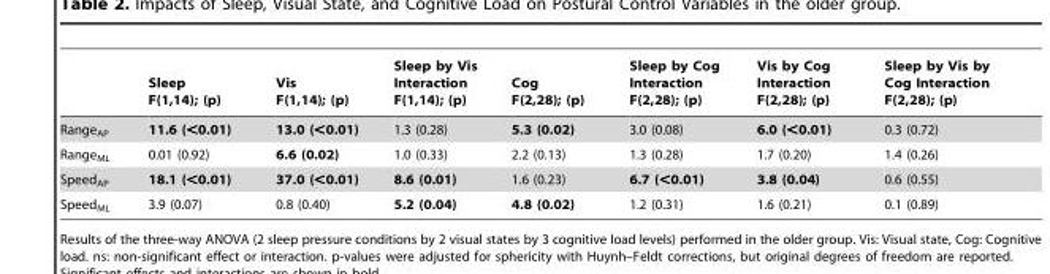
<table><thead><tr><td></td><td>Sleep F(1,14); (p)</td><td>Vis F(1,14); (p)</td><td>Sleep by Vis Interaction F(1,14); (p)</td><td>Cog F(2,28); (p)</td><td>Sleep by Cog Interaction F(2,28); (p)</td><td>Vis by Cog Interaction F(2,28); (p)</td><td>Sleep by Vis by Cog Interaction F(2,28); (p)</td></tr></thead><tbody><tr><td>Range<sub>AP</sub></td><td>11.6 (&lt;0.01)</td><td>13.0 (&lt;0.01)</td><td>1.3 (0.28)</td><td>5.3 (0.02)</td><td>3.0 (0.08)</td><td>6.0 (&lt;0.01)</td><td>0.3 (0.72)</td></tr><tr><td>Range<sub>ML</sub></td><td>0.01 (0.92)</td><td>6.6 (0.02)</td><td>1.0 (0.33)</td><td>2.2 (0.13)</td><td>1.3 (0.28)</td><td>1.7 (0.20)</td><td>1.4 (0.26)</td></tr><tr><td>Speed<sub>AP</sub></td><td>18.1 (&lt;0.01)</td><td>37.0 (&lt;0.01)</td><td>8.6 (0.01)</td><td>1.6 (0.23)</td><td>6.7 (&lt;0.01)</td><td>3.8 (0.04)</td><td>0.6 (0.55)</td></tr><tr><td>Speed<sub>ML</sub></td><td>3.9 (0.07)</td><td>0.8 (0.40)</td><td>5.2 (0.04)</td><td>4.8 (0.02)</td><td>1.2 (0.31)</td><td>1.6 (0.21)</td><td>0.1 (0.89)</td></tr></tbody></table>